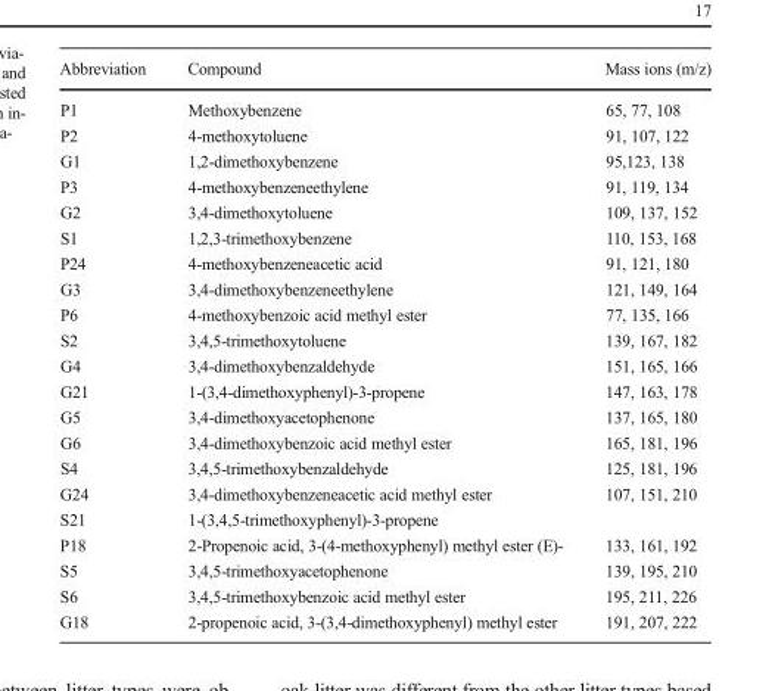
<table><thead><tr><td>Abbreviation</td><td>Compound</td><td>Mass ions (m/z)</td></tr></thead><tbody><tr><td>P1</td><td>Methoxybenzene</td><td>65, 77, 108</td></tr><tr><td>P2</td><td>4-methoxytoluene</td><td>91, 107, 122</td></tr><tr><td>G1</td><td>1,2-dimethoxybenzene</td><td>95,123, 138</td></tr><tr><td>P3</td><td>4-methoxybenzeneethylene</td><td>91, 119, 134</td></tr><tr><td>G2</td><td>3,4-dimethoxytoluene</td><td>109, 137, 152</td></tr><tr><td>S1</td><td>1,2,3-trimethoxybenzene</td><td>110, 153, 168</td></tr><tr><td>P24</td><td>4-methoxybenzeneacetic acid</td><td>91, 121, 180</td></tr><tr><td>G3</td><td>3,4-dimethoxybenzeneethylene</td><td>121, 149, 164</td></tr><tr><td>P6</td><td>4-methoxybenzoic acid methyl ester</td><td>77, 135, 166</td></tr><tr><td>S2</td><td>3,4,5-trimethoxytoluene</td><td>139, 167, 182</td></tr><tr><td>G4</td><td>3,4-dimethoxybenzaldehyde</td><td>151, 165, 166</td></tr><tr><td>G21</td><td>1-(3,4-dimethoxyphenyl)-3-propene</td><td>147, 163, 178</td></tr><tr><td>G5</td><td>3,4-dimethoxyacetophenone</td><td>137, 165, 180</td></tr><tr><td>G6</td><td>3,4-dimethoxybenzoic acid methyl ester</td><td>165, 181, 196</td></tr><tr><td>S4</td><td>3,4,5-trimethoxybenzaldehyde</td><td>125, 181, 196</td></tr><tr><td>G24</td><td>3,4-dimethoxybenzeneacetic acid methyl ester</td><td>107, 151, 210</td></tr><tr><td>S21</td><td>1-(3,4,5-trimethoxyphenyl)-3-propene</td><td></td></tr><tr><td>P18</td><td>2-Propenoic acid, 3-(4-methoxyphenyl) methyl ester (E)-</td><td>133, 161, 192</td></tr><tr><td>S5</td><td>3,4,5-trimethoxyacetophenone</td><td>139, 195, 210</td></tr><tr><td>S6</td><td>3,4,5-trimethoxybenzoic acid methyl ester</td><td>195, 211, 226</td></tr><tr><td>G18</td><td>2-propenoic acid, 3-(3,4-dimethoxyphenyl) methyl ester</td><td>191, 207, 222</td></tr></tbody></table>